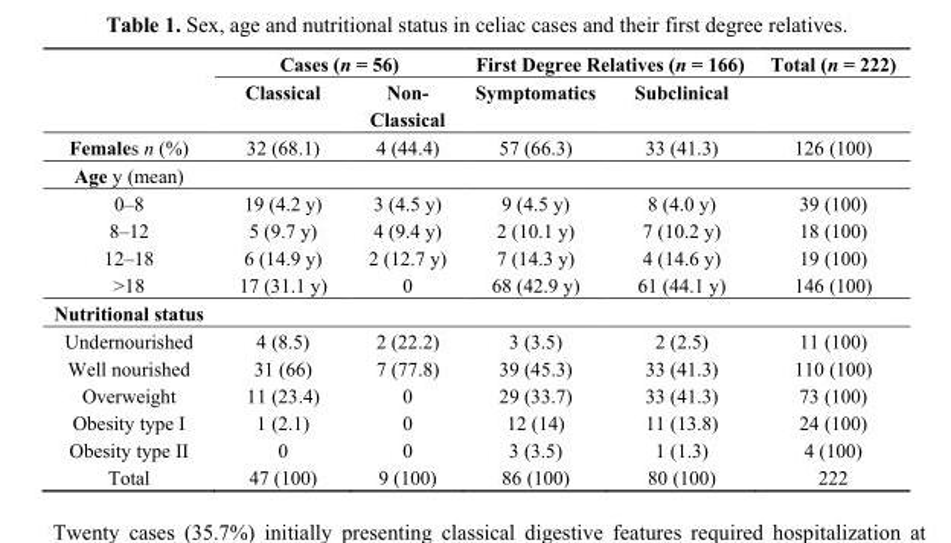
<table><thead><tr><td rowspan="2"></td><td colspan="2">Cases (n = 56)</td><td colspan="2">First Degree Relatives (n = 166)</td><td rowspan="2">Total (n = 222)</td></tr><tr><td>Classical</td><td>Non- Classical</td><td>Symptomatics</td><td>Subclinical</td></tr></thead><tbody><tr><td>Females n (%)</td><td>32 (68.1)</td><td>4 (44.4)</td><td>57 (66.3)</td><td>33 (41.3)</td><td>126 (100)</td></tr><tr><td colspan="6">Age y (mean)</td></tr><tr><td>0–8</td><td>19 (4.2 y)</td><td>3 (4.5 y)</td><td>9 (4.5 y)</td><td>8 (4.0 y)</td><td>39 (100)</td></tr><tr><td>8–12</td><td>5 (9.7 y)</td><td>4 (9.4 y)</td><td>2 (10.1 y)</td><td>7 (10.2 y)</td><td>18 (100)</td></tr><tr><td>12–18</td><td>6 (14.9 y)</td><td>2 (12.7 y)</td><td>7 (14.3 y)</td><td>4 (14.6 y)</td><td>19 (100)</td></tr><tr><td>&gt;18</td><td>17 (31.1 y)</td><td>0</td><td>68 (42.9 y)</td><td>61 (44.1 y)</td><td>146 (100)</td></tr><tr><td colspan="6">Nutritional status</td></tr><tr><td>Undernourished</td><td>4 (8.5)</td><td>2 (22.2)</td><td>3 (3.5)</td><td>2 (2.5)</td><td>11 (100)</td></tr><tr><td>Well nourished</td><td>31 (66)</td><td>7 (77.8)</td><td>39 (45.3)</td><td>33 (41.3)</td><td>110 (100)</td></tr><tr><td>Overweight</td><td>11 (23.4)</td><td>0</td><td>29 (33.7)</td><td>33 (41.3)</td><td>73 (100)</td></tr><tr><td>Obesity type I</td><td>1 (2.1)</td><td>0</td><td>12 (14)</td><td>11 (13.8)</td><td>24 (100)</td></tr><tr><td>Obesity type II</td><td>0</td><td>0</td><td>3 (3.5)</td><td>1 (1.3)</td><td>4 (100)</td></tr><tr><td>Total</td><td>47 (100)</td><td>9 (100)</td><td>86 (100)</td><td>80 (100)</td><td>222</td></tr></tbody></table>